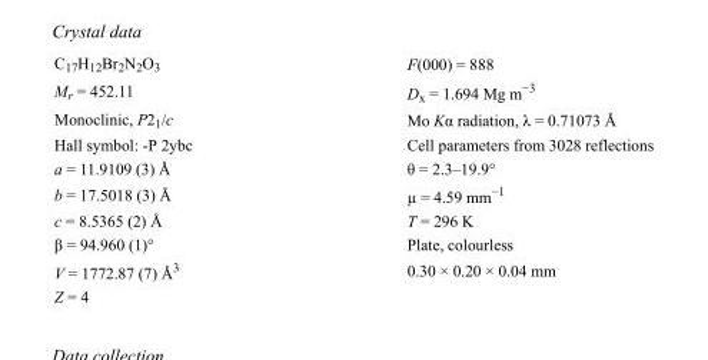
<table><tbody><tr><td>C<sub>17</sub>H<sub>12</sub>Br<sub>2</sub>N<sub>2</sub>O<sub>3</sub></td><td>F(000) = 888</td></tr><tr><td>M<sub>r</sub> = 452.11</td><td>D<sub>x</sub> = 1.694 Mg m<sup>−3</sup></td></tr><tr><td>Monoclinic, P2<sub>1</sub>/c</td><td>Mo Kα radiation, λ = 0.71073 Å</td></tr><tr><td>Hall symbol: -P 2ybc</td><td>Cell parameters from 3028 reflections</td></tr><tr><td>a = 11.9109 (3) Å</td><td>θ = 2.3–19.9°</td></tr><tr><td>b = 17.5018 (3) Å</td><td>µ = 4.59 mm<sup>−1</sup></td></tr><tr><td>c = 8.5365 (2) Å</td><td>T = 296 K</td></tr><tr><td>β = 94.960 (1)°</td><td>Plate, colourless</td></tr><tr><td>V = 1772.87 (7) Å<sup>3</sup></td><td>0.30 × 0.20 × 0.04 mm</td></tr><tr><td>Z = 4</td><td></td></tr></tbody></table>